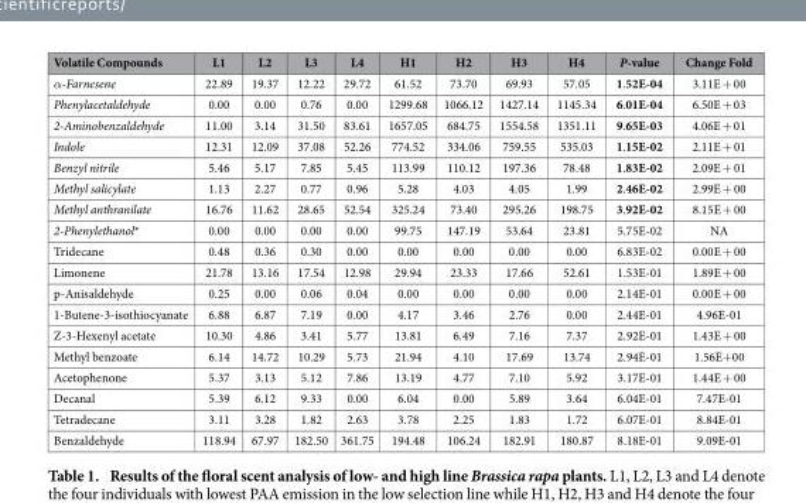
<table><thead><tr><td>Volatile Compounds</td><td>L1</td><td>L2</td><td>L3</td><td>L4</td><td>H1</td><td>H2</td><td>H3</td><td>H4</td><td>P-value</td><td>Change Fold</td></tr></thead><tbody><tr><td>α-Farnesene</td><td>22.89</td><td>19.37</td><td>12.22</td><td>29.72</td><td>61.52</td><td>73.70</td><td>69.93</td><td>57.05</td><td>1.52E-04</td><td>3.11E + 00</td></tr><tr><td>Phenylacetaldehyde</td><td>0.00</td><td>0.00</td><td>0.76</td><td>0.00</td><td>1299.68</td><td>1066.12</td><td>1427.14</td><td>1145.34</td><td>6.01E-04</td><td>6.50E + 03</td></tr><tr><td>2-Aminobenzaldehyde</td><td>11.00</td><td>3.14</td><td>31.50</td><td>83.61</td><td>1657.05</td><td>684.75</td><td>1554.58</td><td>1351.11</td><td>9.65E-03</td><td>4.06E + 01</td></tr><tr><td>Indole</td><td>12.31</td><td>12.09</td><td>37.08</td><td>52.26</td><td>774.52</td><td>334.06</td><td>759.55</td><td>535.03</td><td>1.15E-02</td><td>2.11E + 01</td></tr><tr><td>Benzyl nitrile</td><td>5.46</td><td>5.17</td><td>7.85</td><td>5.45</td><td>113.99</td><td>110.12</td><td>197.36</td><td>78.48</td><td>1.83E-02</td><td>2.09E + 01</td></tr><tr><td>Methyl salicylate</td><td>1.13</td><td>2.27</td><td>0.77</td><td>0.96</td><td>5.28</td><td>4.03</td><td>4.05</td><td>1.99</td><td>2.46E-02</td><td>2.99E + 00</td></tr><tr><td>Methyl anthranilate</td><td>16.76</td><td>11.62</td><td>28.65</td><td>52.54</td><td>325.24</td><td>73.40</td><td>295.26</td><td>198.75</td><td>3.92E-02</td><td>8.15E + 00</td></tr><tr><td>2-Phenylethanol*</td><td>0.00</td><td>0.00</td><td>0.00</td><td>0.00</td><td>99.75</td><td>147.19</td><td>53.64</td><td>23.81</td><td>5.75E-02</td><td>NA</td></tr><tr><td>Tridecane</td><td>0.48</td><td>0.36</td><td>0.30</td><td>0.00</td><td>0.00</td><td>0.00</td><td>0.00</td><td>0.00</td><td>6.83E-02</td><td>0.00E + 00</td></tr><tr><td>Limonene</td><td>21.78</td><td>13.16</td><td>17.54</td><td>12.98</td><td>29.94</td><td>23.33</td><td>17.66</td><td>52.61</td><td>1.53E-01</td><td>1.89E + 00</td></tr><tr><td>p-Anisaldehyde</td><td>0.25</td><td>0.00</td><td>0.06</td><td>0.04</td><td>0.00</td><td>0.00</td><td>0.00</td><td>0.00</td><td>2.14E-01</td><td>0.00E + 00</td></tr><tr><td>1-Butene-3-isothiocyanate</td><td>6.88</td><td>6.87</td><td>7.19</td><td>0.00</td><td>4.17</td><td>3.46</td><td>2.76</td><td>0.00</td><td>2.44E-01</td><td>4.96E-01</td></tr><tr><td>Z-3-Hexenyl acetate</td><td>10.30</td><td>4.86</td><td>3.41</td><td>5.77</td><td>13.81</td><td>6.49</td><td>7.16</td><td>7.37</td><td>2.92E-01</td><td>1.43E + 00</td></tr><tr><td>Methyl benzoate</td><td>6.14</td><td>14.72</td><td>10.29</td><td>5.73</td><td>21.94</td><td>4.10</td><td>17.69</td><td>13.74</td><td>2.94E-01</td><td>1.56E+ 00</td></tr><tr><td>Acetophenone</td><td>5.37</td><td>3.13</td><td>5.12</td><td>7.86</td><td>13.19</td><td>4.77</td><td>7.10</td><td>5.92</td><td>3.17E-01</td><td>1.44E + 00</td></tr><tr><td>Decanal</td><td>5.39</td><td>6.12</td><td>9.33</td><td>0.00</td><td>6.04</td><td>0.00</td><td>5.89</td><td>3.64</td><td>6.04E-01</td><td>7.47E-01</td></tr><tr><td>Tetradecane</td><td>3.11</td><td>3.28</td><td>1.82</td><td>2.63</td><td>3.78</td><td>2.25</td><td>1.83</td><td>1.72</td><td>6.07E-01</td><td>8.84E-01</td></tr><tr><td>Benzaldehyde</td><td>118.94</td><td>67.97</td><td>182.50</td><td>361.75</td><td>194.48</td><td>106.24</td><td>182.91</td><td>180.87</td><td>8.18E-01</td><td>9.09E-01</td></tr></tbody></table>